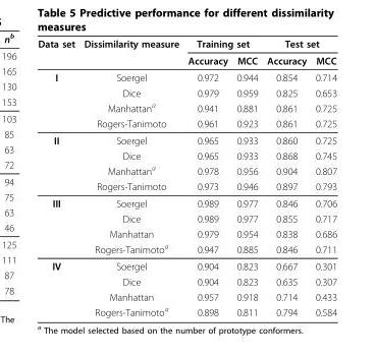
<table><thead><tr><td rowspan="2">Data set</td><td rowspan="2">Dissimilarity measure</td><td colspan="2">Training set</td><td colspan="2">Test set</td></tr><tr><td>Accuracy</td><td>MCC</td><td>Accuracy</td><td>MCC</td></tr></thead><tbody><tr><td rowspan="4">I</td><td>Soergel</td><td>0.972</td><td>0.944</td><td>0.854</td><td>0.714</td></tr><tr><td>Dice</td><td>0.979</td><td>0.959</td><td>0.825</td><td>0.653</td></tr><tr><td>Manhattan<sup>a</sup></td><td>0.941</td><td>0.881</td><td>0.861</td><td>0.725</td></tr><tr><td>Rogers-Tanimoto</td><td>0.961</td><td>0.923</td><td>0.861</td><td>0.725</td></tr><tr><td rowspan="4">II</td><td>Soergel</td><td>0.965</td><td>0.933</td><td>0.860</td><td>0.725</td></tr><tr><td>Dice</td><td>0.965</td><td>0.933</td><td>0.868</td><td>0.745</td></tr><tr><td>Manhattan<sup>a</sup></td><td>0.978</td><td>0.956</td><td>0.904</td><td>0.807</td></tr><tr><td>Rogers-Tanimoto</td><td>0.973</td><td>0.946</td><td>0.897</td><td>0.793</td></tr><tr><td rowspan="4">III</td><td>Soergel</td><td>0.989</td><td>0.977</td><td>0.846</td><td>0.706</td></tr><tr><td>Dice</td><td>0.989</td><td>0.977</td><td>0.855</td><td>0.717</td></tr><tr><td>Manhattan</td><td>0.979</td><td>0.954</td><td>0.838</td><td>0.686</td></tr><tr><td>Rogers-Tanimoto<sup>a</sup></td><td>0.947</td><td>0.885</td><td>0.846</td><td>0.711</td></tr><tr><td rowspan="4">IV</td><td>Soergel</td><td>0.904</td><td>0.823</td><td>0.667</td><td>0.301</td></tr><tr><td>Dice</td><td>0.904</td><td>0.823</td><td>0.635</td><td>0.307</td></tr><tr><td>Manhattan</td><td>0.957</td><td>0.918</td><td>0.714</td><td>0.433</td></tr><tr><td>Rogers-Tanimoto<sup>a</sup></td><td>0.898</td><td>0.811</td><td>0.794</td><td>0.584</td></tr></tbody></table>